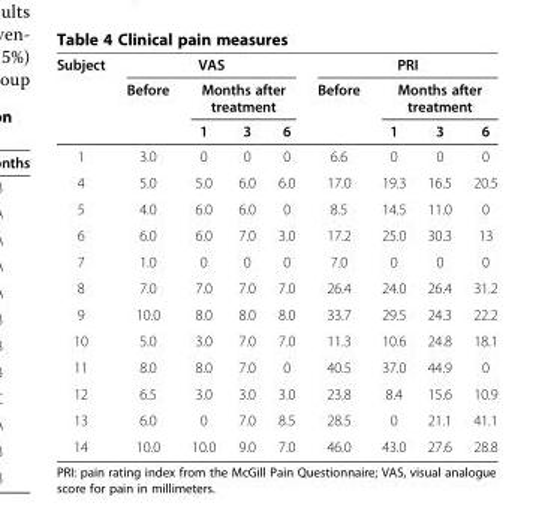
<table><thead><tr><td rowspan="3">Subject</td><td colspan="4">VAS</td><td colspan="4">PRI</td></tr><tr><td rowspan="2">Before</td><td colspan="3">Months after treatment</td><td rowspan="2">Before</td><td colspan="3">Months after treatment</td></tr><tr><td>1</td><td>3</td><td>6</td><td>1</td><td>3</td><td>6</td></tr></thead><tbody><tr><td>1</td><td>3.0</td><td>0</td><td>0</td><td>0</td><td>6.6</td><td>0</td><td>0</td><td>0</td></tr><tr><td>4</td><td>5.0</td><td>5.0</td><td>6.0</td><td>6.0</td><td>17.0</td><td>19.3</td><td>16.5</td><td>20.5</td></tr><tr><td>5</td><td>4.0</td><td>6.0</td><td>6.0</td><td>0</td><td>8.5</td><td>14.5</td><td>11.0</td><td>0</td></tr><tr><td>6</td><td>6.0</td><td>6.0</td><td>7.0</td><td>3.0</td><td>17.2</td><td>25.0</td><td>30.3</td><td>13</td></tr><tr><td>7</td><td>1.0</td><td>0</td><td>0</td><td>0</td><td>7.0</td><td>0</td><td>0</td><td>0</td></tr><tr><td>8</td><td>7.0</td><td>7.0</td><td>7.0</td><td>7.0</td><td>26.4</td><td>24.0</td><td>26.4</td><td>31.2</td></tr><tr><td>9</td><td>10.0</td><td>8.0</td><td>8.0</td><td>8.0</td><td>33.7</td><td>29.5</td><td>24.3</td><td>22.2</td></tr><tr><td>10</td><td>5.0</td><td>3.0</td><td>7.0</td><td>7.0</td><td>11.3</td><td>10.6</td><td>24.8</td><td>18.1</td></tr><tr><td>11</td><td>8.0</td><td>8.0</td><td>7.0</td><td>0</td><td>40.5</td><td>37.0</td><td>44.9</td><td>0</td></tr><tr><td>12</td><td>6.5</td><td>3.0</td><td>3.0</td><td>3.0</td><td>23.8</td><td>8.4</td><td>15.6</td><td>10.9</td></tr><tr><td>13</td><td>6.0</td><td>0</td><td>7.0</td><td>8.5</td><td>28.5</td><td>0</td><td>21.1</td><td>41.1</td></tr><tr><td>14</td><td>10.0</td><td>10.0</td><td>9.0</td><td>7.0</td><td>46.0</td><td>43.0</td><td>27.6</td><td>28.8</td></tr></tbody></table>